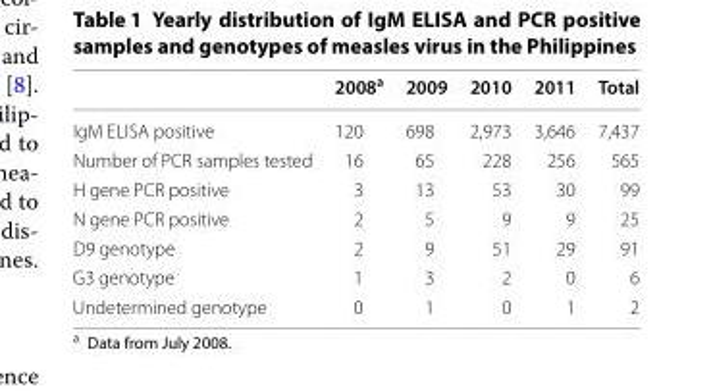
<table><thead><tr><td></td><td>2008<sup>a</sup></td><td>2009</td><td>2010</td><td>2011</td><td>Total</td></tr></thead><tbody><tr><td>IgM ELISA positive</td><td>120</td><td>698</td><td>2,973</td><td>3,646</td><td>7,437</td></tr><tr><td>Number of PCR samples tested</td><td>16</td><td>65</td><td>228</td><td>256</td><td>565</td></tr><tr><td>H gene PCR positive</td><td>3</td><td>13</td><td>53</td><td>30</td><td>99</td></tr><tr><td>N gene PCR positive</td><td>2</td><td>5</td><td>9</td><td>9</td><td>25</td></tr><tr><td>D9 genotype</td><td>2</td><td>9</td><td>51</td><td>29</td><td>91</td></tr><tr><td>G3 genotype</td><td>1</td><td>3</td><td>2</td><td>0</td><td>6</td></tr><tr><td>Undetermined genotype</td><td>0</td><td>1</td><td>0</td><td>1</td><td>2</td></tr></tbody></table>